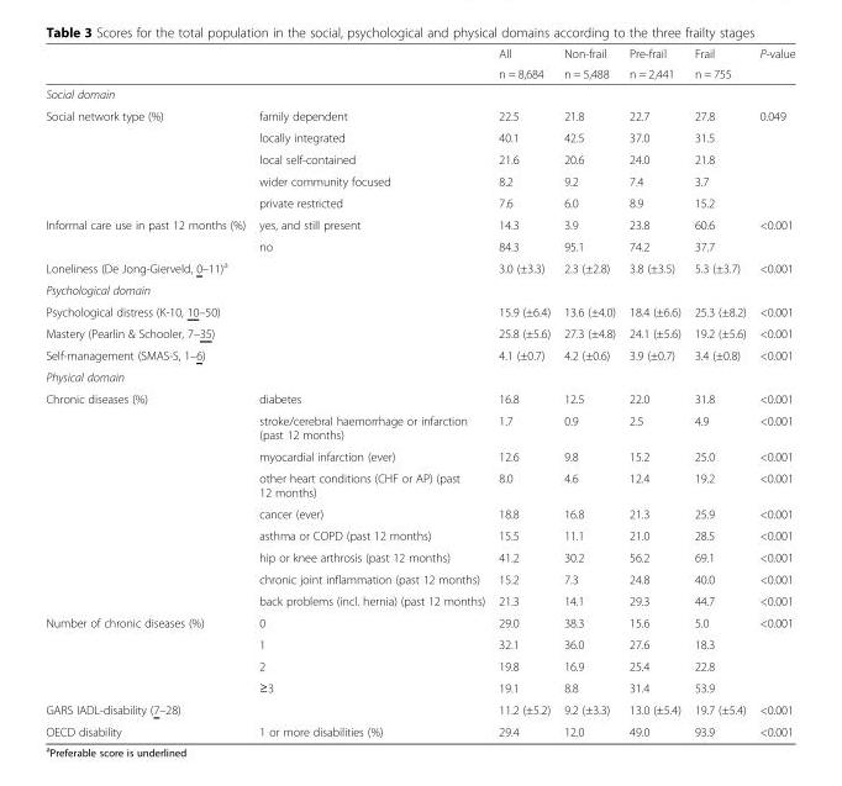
<table><thead><tr><td rowspan="2"></td><td rowspan="2"></td><td rowspan="2">All n = 8,684</td><td rowspan="2">Non-frail n = 5,488</td><td rowspan="2">Pre-frail n = 2,441</td><td rowspan="2">Frail n = 755</td><td rowspan="2">P-value</td></tr><tr></tr></thead><tbody><tr><td colspan="7">Social domain</td></tr><tr><td rowspan="5">Social network type (%)</td><td>family dependent</td><td>22.5</td><td>21.8</td><td>22.7</td><td>27.8</td><td rowspan="5">0.049</td></tr><tr><td>locally integrated</td><td>40.1</td><td>42.5</td><td>37.0</td><td>31.5</td></tr><tr><td>local self-contained</td><td>21.6</td><td>20.6</td><td>24.0</td><td>21.8</td></tr><tr><td>wider community focused</td><td>8.2</td><td>9.2</td><td>7.4</td><td>3.7</td></tr><tr><td>private restricted</td><td>7.6</td><td>6.0</td><td>8.9</td><td>15.2</td></tr><tr><td rowspan="2">Informal care use in past 12 months (%)</td><td>yes, and still present</td><td>14.3</td><td>3.9</td><td>23.8</td><td>60.6</td><td rowspan="2">&lt;0.001</td></tr><tr><td>no</td><td>84.3</td><td>95.1</td><td>74.2</td><td>37.7</td></tr><tr><td>Loneliness (De Jong-Gierveld, 0–11)<sup>a</sup></td><td></td><td>3.0 (±3.3)</td><td>2.3 (±2.8)</td><td>3.8 (±3.5)</td><td>5.3 (±3.7)</td><td>&lt;0.001</td></tr><tr><td colspan="7">Psychological domain</td></tr><tr><td>Psychological distress (K-10, 10–50)</td><td></td><td>15.9 (±6.4)</td><td>13.6 (±4.0)</td><td>18.4 (±6.6)</td><td>25.3 (±8.2)</td><td>&lt;0.001</td></tr><tr><td>Mastery (Pearlin &amp; Schooler, 7–35)</td><td></td><td>25.8 (±5.6)</td><td>27.3 (±4.8)</td><td>24.1 (±5.6)</td><td>19.2 (±5.6)</td><td>&lt;0.001</td></tr><tr><td>Self-management (SMAS-S, 1–6)</td><td></td><td>4.1 (±0.7)</td><td>4.2 (±0.6)</td><td>3.9 (±0.7)</td><td>3.4 (±0.8)</td><td>&lt;0.001</td></tr><tr><td colspan="7">Physical domain</td></tr><tr><td rowspan="9">Chronic diseases (%)</td><td>diabetes</td><td>16.8</td><td>12.5</td><td>22.0</td><td>31.8</td><td>&lt;0.001</td></tr><tr><td>stroke/cerebral haemorrhage or infarction (past 12 months)</td><td>1.7</td><td>0.9</td><td>2.5</td><td>4.9</td><td>&lt;0.001</td></tr><tr><td>myocardial infarction (ever)</td><td>12.6</td><td>9.8</td><td>15.2</td><td>25.0</td><td>&lt;0.001</td></tr><tr><td>other heart conditions (CHF or AP) (past 12 months)</td><td>8.0</td><td>4.6</td><td>12.4</td><td>19.2</td><td>&lt;0.001</td></tr><tr><td>cancer (ever)</td><td>18.8</td><td>16.8</td><td>21.3</td><td>25.9</td><td>&lt;0.001</td></tr><tr><td>asthma or COPD (past 12 months)</td><td>15.5</td><td>11.1</td><td>21.0</td><td>28.5</td><td>&lt;0.001</td></tr><tr><td>hip or knee arthrosis (past 12 months)</td><td>41.2</td><td>30.2</td><td>56.2</td><td>69.1</td><td>&lt;0.001</td></tr><tr><td>chronic joint inflammation (past 12 months)</td><td>15.2</td><td>7.3</td><td>24.8</td><td>40.0</td><td>&lt;0.001</td></tr><tr><td>back problems (incl. hernia) (past 12 months)</td><td>21.3</td><td>14.1</td><td>29.3</td><td>44.7</td><td>&lt;0.001</td></tr><tr><td rowspan="4">Number of chronic diseases (%)</td><td>0</td><td>29.0</td><td>38.3</td><td>15.6</td><td>5.0</td><td rowspan="4">&lt;0.001</td></tr><tr><td>1</td><td>32.1</td><td>36.0</td><td>27.6</td><td>18.3</td></tr><tr><td>2</td><td>19.8</td><td>16.9</td><td>25.4</td><td>22.8</td></tr><tr><td>≥3</td><td>19.1</td><td>8.8</td><td>31.4</td><td>53.9</td></tr><tr><td>GARS IADL-disability (7–28)</td><td></td><td>11.2 (±5.2)</td><td>9.2 (±3.3)</td><td>13.0 (±5.4)</td><td>19.7 (±5.4)</td><td>&lt;0.001</td></tr><tr><td>OECD disability</td><td>1 or more disabilities (%)</td><td>29.4</td><td>12.0</td><td>49.0</td><td>93.9</td><td>&lt;0.001</td></tr></tbody></table>